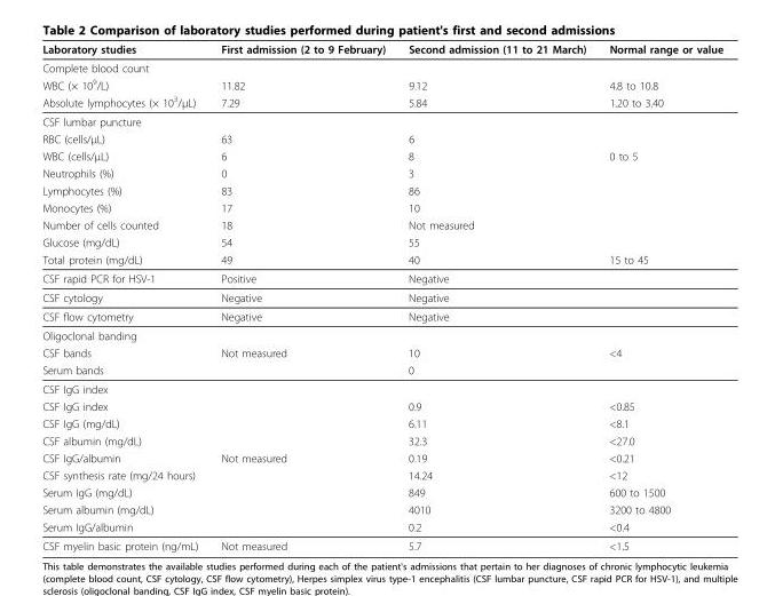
<table><thead><tr><td>Laboratory studies</td><td>First admission (2 to 9 February)</td><td>Second admission (11 to 21 March)</td><td>Normal range or value</td></tr></thead><tbody><tr><td colspan="4">Complete blood count</td></tr><tr><td>WBC (× 10<sup>9</sup>/L)</td><td>11.82</td><td>9.12</td><td>4.8 to 10.8</td></tr><tr><td>Absolute lymphocytes (× 10<sup>3</sup>/μL)</td><td>7.29</td><td>5.84</td><td>1.20 to 3.40</td></tr><tr><td colspan="4">CSF lumbar puncture</td></tr><tr><td>RBC (cells/μL)</td><td>63</td><td>6</td><td></td></tr><tr><td>WBC (cells/μL)</td><td>6</td><td>8</td><td>0 to 5</td></tr><tr><td>Neutrophils (%)</td><td>0</td><td>3</td><td></td></tr><tr><td>Lymphocytes (%)</td><td>83</td><td>86</td><td></td></tr><tr><td>Monocytes (%)</td><td>17</td><td>10</td><td></td></tr><tr><td>Number of cells counted</td><td>18</td><td>Not measured</td><td></td></tr><tr><td>Glucose (mg/dL)</td><td>54</td><td>55</td><td></td></tr><tr><td>Total protein (mg/dL)</td><td>49</td><td>40</td><td>15 to 45</td></tr><tr><td>CSF rapid PCR for HSV-1</td><td>Positive</td><td>Negative</td><td></td></tr><tr><td>CSF cytology</td><td>Negative</td><td>Negative</td><td></td></tr><tr><td>CSF flow cytometry</td><td>Negative</td><td>Negative</td><td></td></tr><tr><td colspan="4">Oligoclonal banding</td></tr><tr><td>CSF bands</td><td>Not measured</td><td>10</td><td>&lt;4</td></tr><tr><td>Serum bands</td><td></td><td>0</td><td></td></tr><tr><td colspan="4">CSF IgG index</td></tr><tr><td>CSF IgG index</td><td></td><td>0.9</td><td>&lt;0.85</td></tr><tr><td>CSF IgG (mg/dL)</td><td></td><td>6.11</td><td>&lt;8.1</td></tr><tr><td>CSF albumin (mg/dL)</td><td></td><td>32.3</td><td>&lt;27.0</td></tr><tr><td>CSF IgG/albumin</td><td>Not measured</td><td>0.19</td><td>&lt;0.21</td></tr><tr><td>CSF synthesis rate (mg/24 hours)</td><td></td><td>14.24</td><td>&lt;12</td></tr><tr><td>Serum IgG (mg/dL)</td><td></td><td>849</td><td>600 to 1500</td></tr><tr><td>Serum albumin (mg/dL)</td><td></td><td>4010</td><td>3200 to 4800</td></tr><tr><td>Serum IgG/albumin</td><td></td><td>0.2</td><td>&lt;0.4</td></tr><tr><td>CSF myelin basic protein (ng/mL)</td><td>Not measured</td><td>5.7</td><td>&lt;1.5</td></tr></tbody></table>